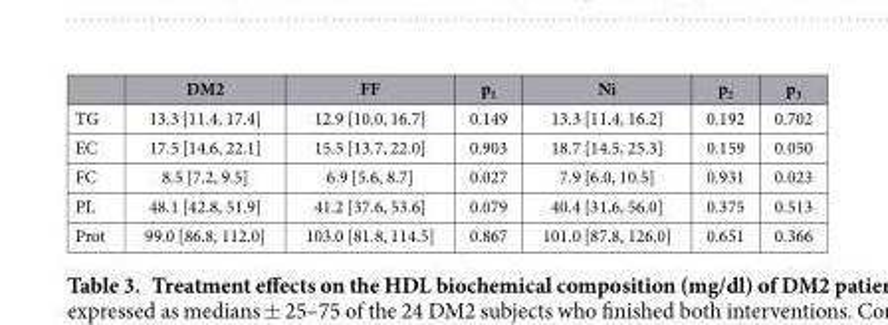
<table><thead><tr><td></td><td>DM2</td><td>FF</td><td>p<sub>1</sub></td><td>Ni</td><td>p<sub>2</sub></td><td>p<sub>3</sub></td></tr></thead><tbody><tr><td>TG</td><td>13.3 [11.4, 17.4]</td><td>12.9 [10.0, 16.7]</td><td>0.149</td><td>13.3 [11.4, 16.2]</td><td>0.192</td><td>0.702</td></tr><tr><td>EC</td><td>17.5 [14.6, 22.1]</td><td>15.5 [13.7, 22.0]</td><td>0.903</td><td>18.7 [14.5, 25.3]</td><td>0.159</td><td>0.050</td></tr><tr><td>FC</td><td>8.5 [7.2, 9.5]</td><td>6.9 [5.6, 8.7]</td><td>0.027</td><td>7.9 [6.0, 10.5]</td><td>0.931</td><td>0.023</td></tr><tr><td>PL</td><td>48.1 [42.8, 51.9]</td><td>41.2 [37.6, 53.6]</td><td>0.079</td><td>40.4 [31.6, 56.0]</td><td>0.375</td><td>0.513</td></tr><tr><td>Prot</td><td>99.0 [86.8, 112.0]</td><td>103.0 [81.8, 114.5]</td><td>0.867</td><td>101.0 [87.8, 126.0]</td><td>0.651</td><td>0.366</td></tr></tbody></table>